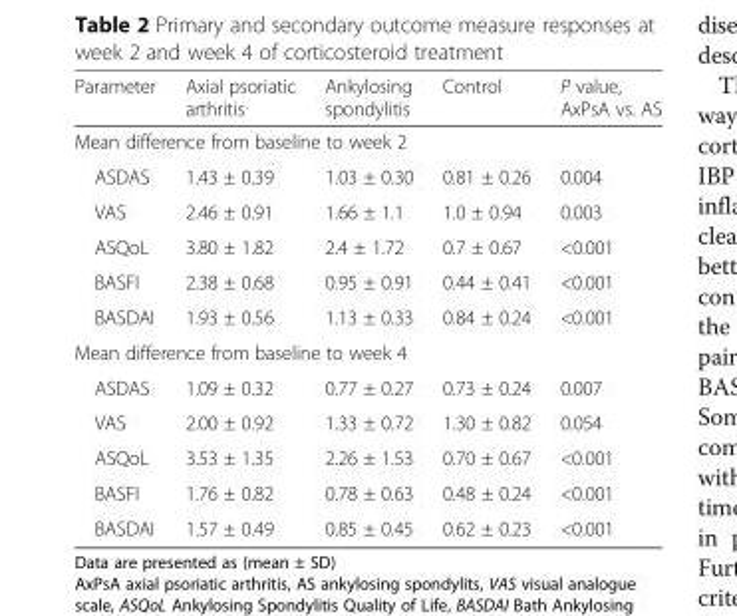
<table><thead><tr><td>Parameter</td><td>Axial psoriatic arthritis</td><td>Ankylosing spondylitis</td><td>Control</td><td>P value, AxPsA vs. AS</td></tr></thead><tbody><tr><td colspan="5">Mean difference from baseline to week 2</td></tr><tr><td>ASDAS</td><td>1.43 ± 0.39</td><td>1.03 ± 0.30</td><td>0.81 ± 0.26</td><td>0.004</td></tr><tr><td>VAS</td><td>2.46 ± 0.91</td><td>1.66 ± 1.1</td><td>1.0 ± 0.94</td><td>0.003</td></tr><tr><td>ASQoL</td><td>3.80 ± 1.82</td><td>2.4 ± 1.72</td><td>0.7 ± 0.67</td><td>&lt;0.001</td></tr><tr><td>BASFI</td><td>2.38 ± 0.68</td><td>0.95 ± 0.91</td><td>0.44 ± 0.41</td><td>&lt;0.001</td></tr><tr><td>BASDAI</td><td>1.93 ± 0.56</td><td>1.13 ± 0.33</td><td>0.84 ± 0.24</td><td>&lt;0.001</td></tr><tr><td colspan="5">Mean difference from baseline to week 4</td></tr><tr><td>ASDAS</td><td>1.09 ± 0.32</td><td>0.77 ± 0.27</td><td>0.73 ± 0.24</td><td>0.007</td></tr><tr><td>VAS</td><td>2.00 ± 0.92</td><td>1.33 ± 0.72</td><td>1.30 ± 0.82</td><td>0.054</td></tr><tr><td>ASQoL</td><td>3.53 ± 1.35</td><td>2.26 ± 1.53</td><td>0.70 ± 0.67</td><td>&lt;0.001</td></tr><tr><td>BASFI</td><td>1.76 ± 0.82</td><td>0.78 ± 0.63</td><td>0.48 ± 0.24</td><td>&lt;0.001</td></tr><tr><td>BASDAI</td><td>1.57 ± 0.49</td><td>0.85 ± 0.45</td><td>0.62 ± 0.23</td><td>&lt;0.001</td></tr></tbody></table>